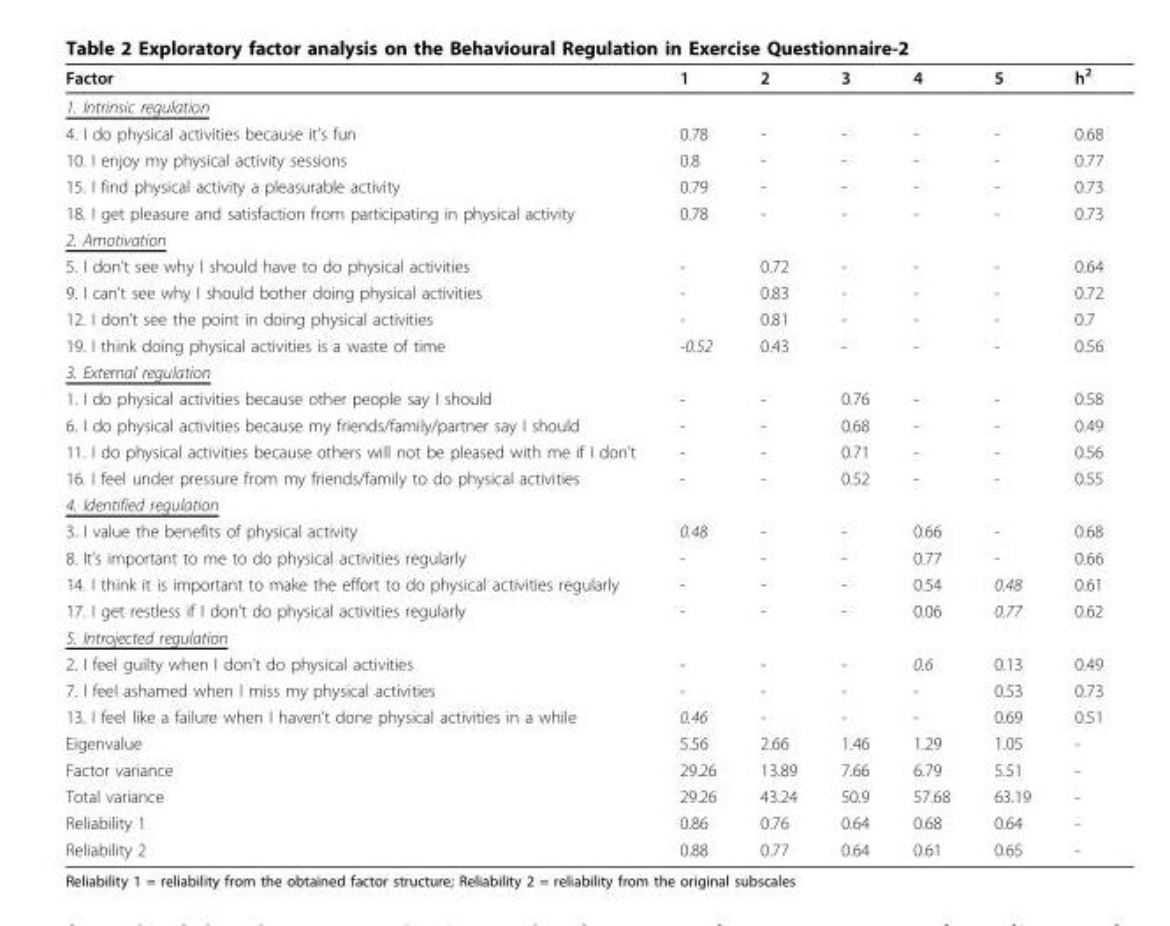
<table><thead><tr><td>Factor</td><td>1</td><td>2</td><td>3</td><td>4</td><td>5</td><td>h<sup>2</sup></td></tr></thead><tbody><tr><td colspan="7">1. Intrinsic regulation</td></tr><tr><td>4. I do physical activities because it’s fun</td><td>0.78</td><td>-</td><td>-</td><td>-</td><td>-</td><td>0.68</td></tr><tr><td>10. I enjoy my physical activity sessions</td><td>0.8</td><td>-</td><td>-</td><td>-</td><td>-</td><td>0.77</td></tr><tr><td>15. I find physical activity a pleasurable activity</td><td>0.79</td><td>-</td><td>-</td><td>-</td><td>-</td><td>0.73</td></tr><tr><td>18. I get pleasure and satisfaction from participating in physical activity</td><td>0.78</td><td>-</td><td>-</td><td>-</td><td>-</td><td>0.73</td></tr><tr><td colspan="7">2. Amotivation</td></tr><tr><td>5. I don’t see why I should have to do physical activities</td><td>-</td><td>0.72</td><td>-</td><td>-</td><td>-</td><td>0.64</td></tr><tr><td>9. I can’t see why I should bother doing physical activities</td><td>-</td><td>0.83</td><td>-</td><td>-</td><td>-</td><td>0.72</td></tr><tr><td>12. I don’t see the point in doing physical activities</td><td>-</td><td>0.81</td><td>-</td><td>-</td><td>-</td><td>0.7</td></tr><tr><td>19. I think doing physical activities is a waste of time</td><td>-0.52</td><td>0.43</td><td>-</td><td>-</td><td>-</td><td>0.56</td></tr><tr><td colspan="7">3. External regulation</td></tr><tr><td>1. I do physical activities because other people say I should</td><td>-</td><td>-</td><td>0.76</td><td>-</td><td>-</td><td>0.58</td></tr><tr><td>6. I do physical activities because my friends/family/partner say I should</td><td>-</td><td>-</td><td>0.68</td><td>-</td><td>-</td><td>0.49</td></tr><tr><td>11. I do physical activities because others will not be pleased with me if I don’t</td><td>-</td><td>-</td><td>0.71</td><td>-</td><td>-</td><td>0.56</td></tr><tr><td>16. I feel under pressure from my friends/family to do physical activities</td><td>-</td><td>-</td><td>0.52</td><td>-</td><td>-</td><td>0.55</td></tr><tr><td colspan="7">4. Identified regulation</td></tr><tr><td>3. I value the benefits of physical activity</td><td>0.48</td><td>-</td><td>-</td><td>0.66</td><td>-</td><td>0.68</td></tr><tr><td>8. It’s important to me to do physical activities regularly</td><td>-</td><td>-</td><td>-</td><td>0.77</td><td>-</td><td>0.66</td></tr><tr><td>14. I think it is important to make the effort to do physical activities regularly</td><td>-</td><td>-</td><td>-</td><td>0.54</td><td>0.48</td><td>0.61</td></tr><tr><td>17. I get restless if I don’t do physical activities regularly</td><td>-</td><td>-</td><td>-</td><td>0.06</td><td>0.77</td><td>0.62</td></tr><tr><td colspan="7">5. Introjected regulation</td></tr><tr><td>2. I feel guilty when I don’t do physical activities</td><td>-</td><td>-</td><td>-</td><td>0.6</td><td>0.13</td><td>0.49</td></tr><tr><td>7. I feel ashamed when I miss my physical activities</td><td>-</td><td>-</td><td>-</td><td>-</td><td>0.53</td><td>0.73</td></tr><tr><td>13. I feel like a failure when I haven’t done physical activities in a while</td><td>0.46</td><td>-</td><td>-</td><td>-</td><td>0.69</td><td>0.51</td></tr><tr><td>Eigenvalue</td><td>5.56</td><td>2.66</td><td>1.46</td><td>1.29</td><td>1.05</td><td>-</td></tr><tr><td>Factor variance</td><td>29.26</td><td>13.89</td><td>7.66</td><td>6.79</td><td>5.51</td><td>-</td></tr><tr><td>Total variance</td><td>29.26</td><td>43.24</td><td>50.9</td><td>57.68</td><td>63.19</td><td>-</td></tr><tr><td>Reliability 1</td><td>0.86</td><td>0.76</td><td>0.64</td><td>0.68</td><td>0.64</td><td>-</td></tr><tr><td>Reliability 2</td><td>0.88</td><td>0.77</td><td>0.64</td><td>0.61</td><td>0.65</td><td>-</td></tr></tbody></table>